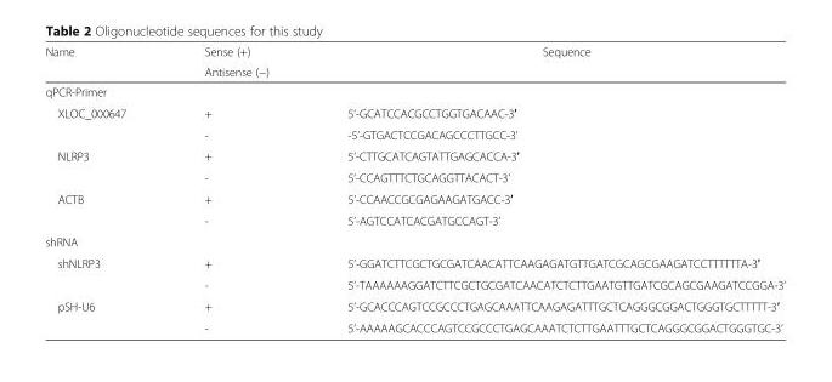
<table><thead><tr><td rowspan="2">Name</td><td rowspan="2">Sense (+) Antisense (−)</td><td rowspan="2">Sequence</td></tr><tr></tr></thead><tbody><tr><td colspan="3">qPCR-Primer</td></tr><tr><td rowspan="2">XLOC_000647</td><td>+</td><td>5’-GCATCCACGCCTGGTGACAAC-3′</td></tr><tr><td>-</td><td>-5’-GTGACTCCGACAGCCCTTGCC-3’</td></tr><tr><td rowspan="2">NLRP3</td><td>+</td><td>5’-CTTGCATCAGTATTGAGCACCA-3′</td></tr><tr><td>-</td><td>5’-CCAGTTTCTGCAGGTTACACT-3’</td></tr><tr><td rowspan="2">ACTB</td><td>+</td><td>5’-CCAACCGCGAGAAGATGACC-3′</td></tr><tr><td>-</td><td>5’-AGTCCATCACGATGCCAGT-3’</td></tr><tr><td colspan="3">shRNA</td></tr><tr><td rowspan="2">shNLRP3</td><td>+</td><td>5’-GGATCTTCGCTGCGATCAACATTCAAGAGATGTTGATCGCAGCGAAGATCCTTTTTTA-3′</td></tr><tr><td>-</td><td>5’-TAAAAAAGGATCTTCGCTGCGATCAACATCTCTTGAATGTTGATCGCAGCGAAGATCCGGA-3’</td></tr><tr><td rowspan="2">pSH-U6</td><td>+</td><td>5’-GCACCCAGTCCGCCCTGAGCAAATTCAAGAGATTTGCTCAGGGCGGACTGGGTGCTTTTT-3′</td></tr><tr><td>-</td><td>5’-AAAAAGCACCCAGTCCGCCCTGAGCAAATCTCTTGAATTTGCTCAGGGCGGACTGGGTGC-3’</td></tr></tbody></table>